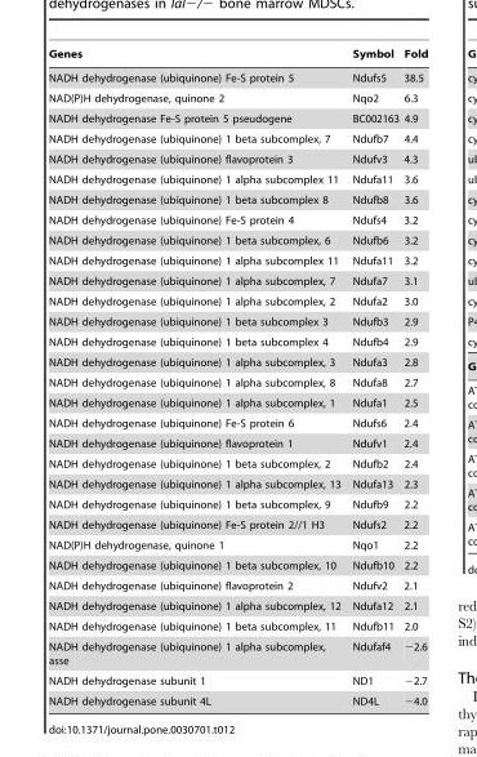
<table><thead><tr><td>Genes</td><td>Symbol</td><td>Fold</td></tr></thead><tbody><tr><td>NADH dehydrogenase (ubiquinone) Fe-S protein 5</td><td>Ndufs5</td><td>38.5</td></tr><tr><td>NAD(P)H dehydrogenase, quinone 2</td><td>Nqo2</td><td>6.3</td></tr><tr><td>NADH dehydrogenase Fe-S protein 5 pseudogene</td><td>BC002163</td><td>4.9</td></tr><tr><td>NADH dehydrogenase (ubiquinone) 1 beta subcomplex, 7</td><td>Ndufb7</td><td>4.4</td></tr><tr><td>NADH dehydrogenase (ubiquinone) flavoprotein 3</td><td>Ndufv3</td><td>4.3</td></tr><tr><td>NADH dehydrogenase (ubiquinone) 1 alpha subcomplex 11</td><td>Ndufa11</td><td>3.6</td></tr><tr><td>NADH dehydrogenase (ubiquinone) 1 beta subcomplex 8</td><td>Ndufb8</td><td>3.6</td></tr><tr><td>NADH dehydrogenase (ubiquinone) Fe-S protein 4</td><td>Ndufs4</td><td>3.2</td></tr><tr><td>NADH dehydrogenase (ubiquinone) 1 beta subcomplex, 6</td><td>Ndufb6</td><td>3.2</td></tr><tr><td>NADH dehydrogenase (ubiquinone) 1 alpha subcomplex 11</td><td>Ndufa11</td><td>3.2</td></tr><tr><td>NADH dehydrogenase (ubiquinone) 1 alpha subcomplex, 7</td><td>Ndufa7</td><td>3.1</td></tr><tr><td>NADH dehydrogenase (ubiquinone) 1 alpha subcomplex, 2</td><td>Ndufa2</td><td>3.0</td></tr><tr><td>NADH dehydrogenase (ubiquinone) 1 beta subcomplex 3</td><td>Ndufb3</td><td>2.9</td></tr><tr><td>NADH dehydrogenase (ubiquinone) 1 beta subcomplex 4</td><td>Ndufb4</td><td>2.9</td></tr><tr><td>NADH dehydrogenase (ubiquinone) 1 alpha subcomplex, 3</td><td>Ndufa3</td><td>2.8</td></tr><tr><td>NADH dehydrogenase (ubiquinone) 1 alpha subcomplex, 8</td><td>Ndufa8</td><td>2.7</td></tr><tr><td>NADH dehydrogenase (ubiquinone) 1 alpha subcomplex, 1</td><td>Ndufa1</td><td>2.5</td></tr><tr><td>NADH dehydrogenase (ubiquinone) Fe-S protein 6</td><td>Ndufs6</td><td>2.4</td></tr><tr><td>NADH dehydrogenase (ubiquinone) flavoprotein 1</td><td>Ndufv1</td><td>2.4</td></tr><tr><td>NADH dehydrogenase (ubiquinone) 1 beta subcomplex, 2</td><td>Ndufb2</td><td>2.4</td></tr><tr><td>NADH dehydrogenase (ubiquinone) 1 alpha subcomplex, 13</td><td>Ndufa13</td><td>2.3</td></tr><tr><td>NADH dehydrogenase (ubiquinone) 1 beta subcomplex, 9</td><td>Ndufb9</td><td>2.2</td></tr><tr><td>NADH dehydrogenase (ubiquinone) Fe-S protein 2//1 H3</td><td>Ndufs2</td><td>2.2</td></tr><tr><td>NAD(P)H dehydrogenase, quinone 1</td><td>Nqo1</td><td>2.2</td></tr><tr><td>NADH dehydrogenase (ubiquinone) 1 beta subcomplex, 10</td><td>Ndufb10</td><td>2.2</td></tr><tr><td>NADH dehydrogenase (ubiquinone) flavoprotein 2</td><td>Ndufv2</td><td>2.1</td></tr><tr><td>NADH dehydrogenase (ubiquinone) 1 alpha subcomplex, 12</td><td>Ndufa12</td><td>2.1</td></tr><tr><td>NADH dehydrogenase (ubiquinone) 1 beta subcomplex, 11</td><td>Ndufb11</td><td>2.0</td></tr><tr><td>NADH dehydrogenase (ubiquinone) 1 alpha subcomplex, asse</td><td>Ndufaf4</td><td>−2.6</td></tr><tr><td>NADH dehydrogenase subunit 1</td><td>ND1</td><td>−2.7</td></tr><tr><td>NADH dehydrogenase subunit 4L</td><td>ND4L</td><td>−4.0</td></tr></tbody></table>